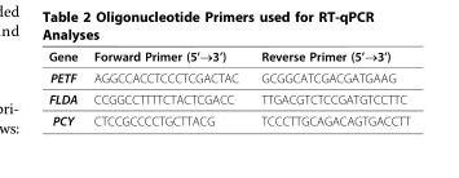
<table><thead><tr><td>Gene</td><td>Forward Primer (5’→3’)</td><td>Reverse Primer (5’→3’)</td></tr></thead><tbody><tr><td>PETF</td><td>AGGCCACCTCCCTCGACTAC</td><td>GCGGCATCGACGATGAAG</td></tr><tr><td>FLDA</td><td>CCGGCCTTTTCTACTCGACC</td><td>TTGACGTCTCCGATGTCCTTC</td></tr><tr><td>PCY</td><td>CTCCGCCCCTGCTTACG</td><td>TCCCTTGCAGACAGTGACCTT</td></tr></tbody></table>